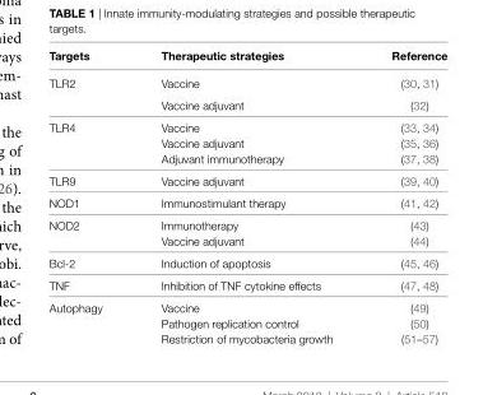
<table><thead><tr><td>Targets</td><td>Therapeutic strategies</td><td>Reference</td></tr></thead><tbody><tr><td rowspan="2">TLR2</td><td>Vaccine</td><td>(30, 31)</td></tr><tr><td>Vaccine adjuvant</td><td>(32)</td></tr><tr><td rowspan="3">TLR4</td><td>Vaccine</td><td>(33, 34)</td></tr><tr><td>Vaccine adjuvant</td><td>(35, 36)</td></tr><tr><td>Adjuvant immunotherapy</td><td>(37, 38)</td></tr><tr><td>TLR9</td><td>Vaccine adjuvant</td><td>(39, 40)</td></tr><tr><td>NOD1</td><td>Immunostimulant therapy</td><td>(41, 42)</td></tr><tr><td rowspan="2">NOD2</td><td>Immunotherapy</td><td>(43)</td></tr><tr><td>Vaccine adjuvant</td><td>(44)</td></tr><tr><td>Bcl-2</td><td>Induction of apoptosis</td><td>(45, 46)</td></tr><tr><td>TNF</td><td>Inhibition of TNF cytokine effects</td><td>(47, 48)</td></tr><tr><td rowspan="3">Autophagy</td><td>Vaccine</td><td>(49)</td></tr><tr><td>Pathogen replication control</td><td>(50)</td></tr><tr><td>Restriction of mycobacteria growth</td><td>(51–57)</td></tr></tbody></table>